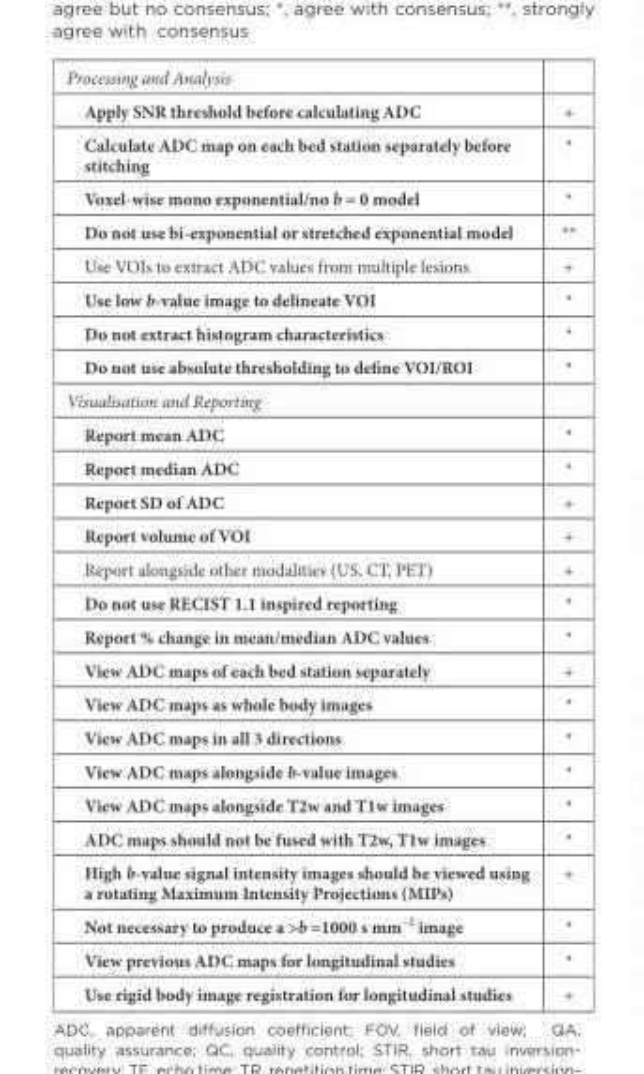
<table><tbody><tr><td colspan="2">Processing and Analysis</td></tr><tr><td>Apply SNR threshold before calculating ADC</td><td>+</td></tr><tr><td>Calculate ADC map on each bed station separately before stitching</td><td>*</td></tr><tr><td>Voxel-wise mono exponential/no b = 0 model</td><td>*</td></tr><tr><td>Do not use bi-exponential or stretched exponential model</td><td>**</td></tr><tr><td>Use VOIs to extract ADC values from multiple lesions</td><td>+</td></tr><tr><td>Use low b-value image to delineate VOI</td><td>*</td></tr><tr><td>Do not extract histogram characteristics</td><td>*</td></tr><tr><td>Do not use absolute thresholding to define VOI/ROI</td><td>*</td></tr><tr><td colspan="2">Visualisation and Reporting</td></tr><tr><td>Report mean ADC</td><td>*</td></tr><tr><td>Report median ADC</td><td>*</td></tr><tr><td>Report SD of ADC</td><td>+</td></tr><tr><td>Report volume of VOI</td><td>+</td></tr><tr><td>Report alongside other modalities (US, CT, PET)</td><td>+</td></tr><tr><td>Do not use RECIST 1.1 inspired reporting</td><td>*</td></tr><tr><td>Report % change in mean/median ADC values</td><td>*</td></tr><tr><td>View ADC maps of each bed station separately</td><td>+</td></tr><tr><td>View ADC maps as whole body images</td><td>*</td></tr><tr><td>View ADC maps in all 3 directions</td><td>*</td></tr><tr><td>View ADC maps alongside b-value images</td><td>*</td></tr><tr><td>View ADC maps alongside T2w and T1w images</td><td>*</td></tr><tr><td>ADC maps should not be fused with T2w, T1w images</td><td>*</td></tr><tr><td>High b-value signal intensity images should be viewed using a rotating Maximum Intensity Projections (MIPs)</td><td>+</td></tr><tr><td>Not necessary to produce a &gt;b =1000 s mm–2 image</td><td>*</td></tr><tr><td>View previous ADC maps for longitudinal studies</td><td>*</td></tr><tr><td>Use rigid body image registration for longitudinal studies</td><td>+</td></tr></tbody></table>